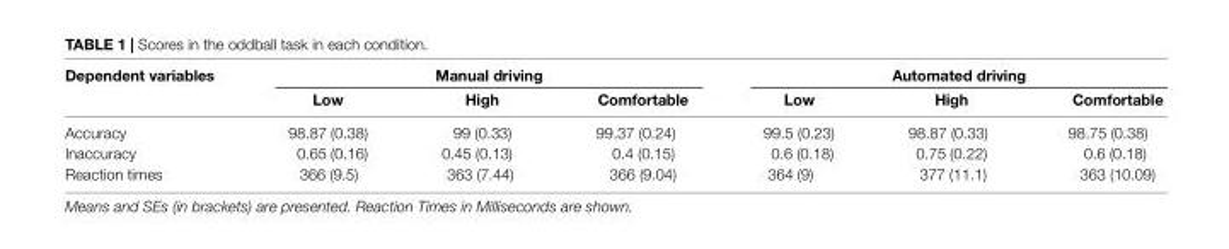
<table><thead><tr><td rowspan="2">Dependent variables</td><td colspan="3">Manual driving</td><td colspan="3">Automated driving</td></tr><tr><td>Low</td><td>High</td><td>Comfortable</td><td>Low</td><td>High</td><td>Comfortable</td></tr></thead><tbody><tr><td>Accuracy</td><td>98.87 (0.38)</td><td>99 (0.33)</td><td>99.37 (0.24)</td><td>99.5 (0.23)</td><td>98.87 (0.33)</td><td>98.75 (0.38)</td></tr><tr><td>Inaccuracy</td><td>0.65 (0.16)</td><td>0.45 (0.13)</td><td>0.4 (0.15)</td><td>0.6 (0.18)</td><td>0.75 (0.22)</td><td>0.6 (0.18)</td></tr><tr><td>Reaction times</td><td>366 (9.5)</td><td>363 (7.44)</td><td>366 (9.04)</td><td>364 (9)</td><td>377 (11.1)</td><td>363 (10.09)</td></tr></tbody></table>